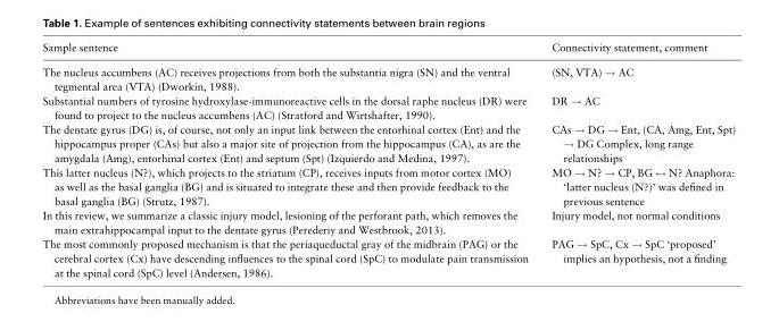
<table><thead><tr><td>Sample sentence</td><td>Connectivity statement, comment</td></tr></thead><tbody><tr><td>The nucleus accumbens (AC) receives projections from both the substantia nigra (SN) and the ventral tegmental area (VTA) (Dworkin, 1988).</td><td>(SN, VTA) → AC</td></tr><tr><td>Substantial numbers of tyrosine hydroxylase-immunoreactive cells in the dorsal raphe nucleus (DR) were found to project to the nucleus accumbens (AC) (Stratford and Wirtshafter, 1990).</td><td>DR → AC</td></tr><tr><td>The dentate gyrus (DG) is, of course, not only an input link between the entorhinal cortex (Ent) and the hippocampus proper (CAs) but also a major site of projection from the hippocampus (CA), as are the amygdala (Amg), entorhinal cortex (Ent) and septum (Spt) (Izquierdo and Medina, 1997).</td><td>CAs → DG → Ent, (CA, Amg, Ent, Spt) → DG Complex, long range relationships</td></tr><tr><td>This latter nucleus (N?), which projects to the striatum (CP), receives inputs from motor cortex (MO) as well as the basal ganglia (BG) and is situated to integrate these and then provide feedback to the basal ganglia (BG) (Strutz, 1987).</td><td>MO → N? → CP, BG ↔ N? Anaphora: ‘latter nucleus (N?)’ was defined in previous sentence</td></tr><tr><td>In this review, we summarize a classic injury model, lesioning of the perforant path, which removes the main extrahippocampal input to the dentate gyrus (Perederiy and Westbrook, 2013).</td><td>Injury model, not normal conditions</td></tr><tr><td>The most commonly proposed mechanism is that the periaqueductal gray of the midbrain (PAG) or the cerebral cortex (Cx) have descending influences to the spinal cord (SpC) to modulate pain transmission at the spinal cord (SpC) level (Andersen, 1986).</td><td>PAG → SpC, Cx → SpC ‘proposed’ implies an hypothesis, not a finding</td></tr></tbody></table>